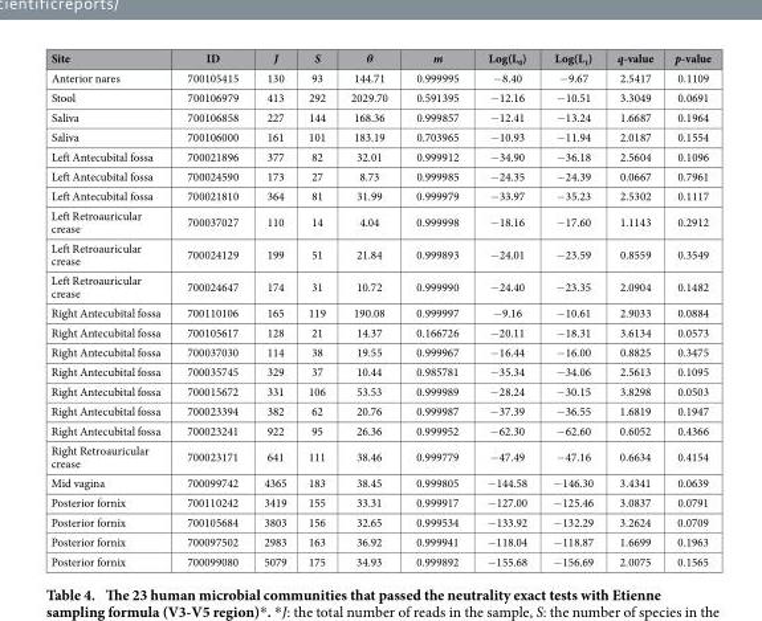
<table><thead><tr><td>Site</td><td>ID</td><td>J</td><td>S</td><td>θ</td><td>m</td><td>Log(L<sub>0</sub>)</td><td>Log(L<sub>1</sub>)</td><td>q-value</td><td>p-value</td></tr></thead><tbody><tr><td>Anterior nares</td><td>700105415</td><td>130</td><td>93</td><td>144.71</td><td>0.999995</td><td>− 8.40</td><td>− 9.67</td><td>2.5417</td><td>0.1109</td></tr><tr><td>Stool</td><td>700106979</td><td>413</td><td>292</td><td>2029.70</td><td>0.591395</td><td>− 12.16</td><td>− 10.51</td><td>3.3049</td><td>0.0691</td></tr><tr><td>Saliva</td><td>700106858</td><td>227</td><td>144</td><td>168.36</td><td>0.999857</td><td>− 12.41</td><td>− 13.24</td><td>1.6687</td><td>0.1964</td></tr><tr><td>Saliva</td><td>700106000</td><td>161</td><td>101</td><td>183.19</td><td>0.703965</td><td>− 10.93</td><td>− 11.94</td><td>2.0187</td><td>0.1554</td></tr><tr><td>Left Antecubital fossa</td><td>700021896</td><td>377</td><td>82</td><td>32.01</td><td>0.999912</td><td>− 34.90</td><td>− 36.18</td><td>2.5604</td><td>0.1096</td></tr><tr><td>Left Antecubital fossa</td><td>700024590</td><td>173</td><td>27</td><td>8.73</td><td>0.999985</td><td>− 24.35</td><td>− 24.39</td><td>0.0667</td><td>0.7961</td></tr><tr><td>Left Antecubital fossa</td><td>700021810</td><td>364</td><td>81</td><td>31.99</td><td>0.999979</td><td>− 33.97</td><td>− 35.23</td><td>2.5302</td><td>0.1117</td></tr><tr><td>Left Retroauricular crease</td><td>700037027</td><td>110</td><td>14</td><td>4.04</td><td>0.999998</td><td>− 18.16</td><td>− 17.60</td><td>1.1143</td><td>0.2912</td></tr><tr><td>Left Retroauricular crease</td><td>700024129</td><td>199</td><td>51</td><td>21.84</td><td>0.999893</td><td>− 24.01</td><td>− 23.59</td><td>0.8559</td><td>0.3549</td></tr><tr><td>Left Retroauricular crease</td><td>700024647</td><td>174</td><td>31</td><td>10.72</td><td>0.999990</td><td>− 24.40</td><td>− 23.35</td><td>2.0904</td><td>0.1482</td></tr><tr><td>Right Antecubital fossa</td><td>700110106</td><td>165</td><td>119</td><td>190.08</td><td>0.999997</td><td>− 9.16</td><td>− 10.61</td><td>2.9033</td><td>0.0884</td></tr><tr><td>Right Antecubital fossa</td><td>700105617</td><td>128</td><td>21</td><td>14.37</td><td>0.166726</td><td>− 20.11</td><td>− 18.31</td><td>3.6134</td><td>0.0573</td></tr><tr><td>Right Antecubital fossa</td><td>700037030</td><td>114</td><td>38</td><td>19.55</td><td>0.999967</td><td>− 16.44</td><td>− 16.00</td><td>0.8825</td><td>0.3475</td></tr><tr><td>Right Antecubital fossa</td><td>700035745</td><td>329</td><td>37</td><td>10.44</td><td>0.985781</td><td>− 35.34</td><td>− 34.06</td><td>2.5613</td><td>0.1095</td></tr><tr><td>Right Antecubital fossa</td><td>700015672</td><td>331</td><td>106</td><td>53.53</td><td>0.999989</td><td>− 28.24</td><td>− 30.15</td><td>3.8298</td><td>0.0503</td></tr><tr><td>Right Antecubital fossa</td><td>700023394</td><td>382</td><td>62</td><td>20.76</td><td>0.999987</td><td>− 37.39</td><td>− 36.55</td><td>1.6819</td><td>0.1947</td></tr><tr><td>Right Antecubital fossa</td><td>700023241</td><td>922</td><td>95</td><td>26.36</td><td>0.999952</td><td>− 62.30</td><td>− 62.60</td><td>0.6052</td><td>0.4366</td></tr><tr><td>Right Retroauricular crease</td><td>700023171</td><td>641</td><td>111</td><td>38.46</td><td>0.999779</td><td>− 47.49</td><td>− 47.16</td><td>0.6634</td><td>0.4154</td></tr><tr><td>Mid vagina</td><td>700099742</td><td>4365</td><td>183</td><td>38.45</td><td>0.999805</td><td>− 144.58</td><td>− 146.30</td><td>3.4341</td><td>0.0639</td></tr><tr><td>Posterior fornix</td><td>700110242</td><td>3419</td><td>155</td><td>33.31</td><td>0.999917</td><td>− 127.00</td><td>− 125.46</td><td>3.0837</td><td>0.0791</td></tr><tr><td>Posterior fornix</td><td>700105684</td><td>3803</td><td>156</td><td>32.65</td><td>0.999534</td><td>− 133.92</td><td>− 132.29</td><td>3.2624</td><td>0.0709</td></tr><tr><td>Posterior fornix</td><td>700097502</td><td>2983</td><td>163</td><td>36.92</td><td>0.999941</td><td>− 118.04</td><td>− 118.87</td><td>1.6699</td><td>0.1963</td></tr><tr><td>Posterior fornix</td><td>700099080</td><td>5079</td><td>175</td><td>34.93</td><td>0.999892</td><td>− 155.68</td><td>− 156.69</td><td>2.0075</td><td>0.1565</td></tr></tbody></table>